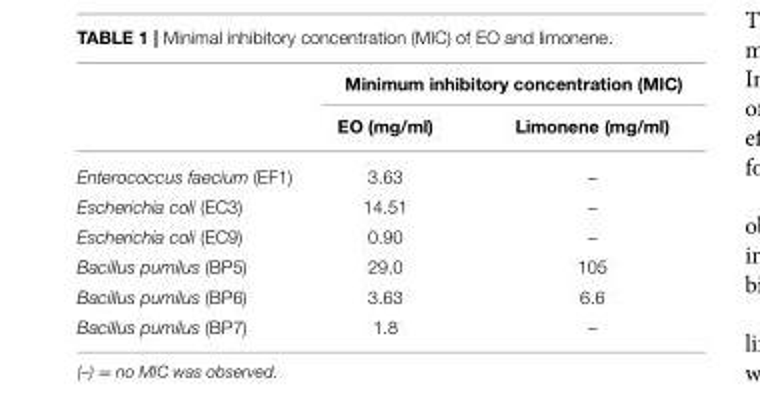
<table><thead><tr><td rowspan="2"></td><td colspan="2">Minimum inhibitory concentration (MIC)</td></tr><tr><td>EO (mg/ml)</td><td>Limonene (mg/ml)</td></tr></thead><tbody><tr><td>Enterococcus faecium (EF1)</td><td>3.63</td><td>–</td></tr><tr><td>Escherichia coli (EC3)</td><td>14.51</td><td>–</td></tr><tr><td>Escherichia coli (EC9)</td><td>0.90</td><td>–</td></tr><tr><td>Bacillus pumilus (BP5)</td><td>29.0</td><td>105</td></tr><tr><td>Bacillus pumilus (BP6)</td><td>3.63</td><td>6.6</td></tr><tr><td>Bacillus pumilus (BP7)</td><td>1.8</td><td>–</td></tr></tbody></table>